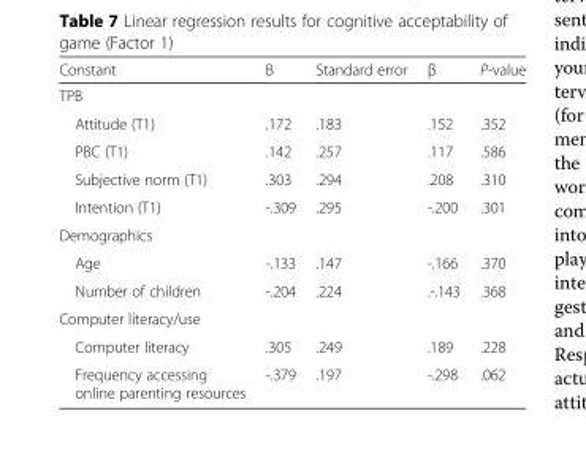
<table><thead><tr><td>Constant</td><td>B</td><td>Standard error</td><td>β</td><td>P-value</td></tr></thead><tbody><tr><td colspan="5">TPB</td></tr><tr><td>Attitude (T1)</td><td>.172</td><td>.183</td><td>.152</td><td>.352</td></tr><tr><td>PBC (T1)</td><td>.142</td><td>.257</td><td>.117</td><td>.586</td></tr><tr><td>Subjective norm (T1)</td><td>.303</td><td>.294</td><td>.208</td><td>.310</td></tr><tr><td>Intention (T1)</td><td>-.309</td><td>.295</td><td>-.200</td><td>.301</td></tr><tr><td colspan="5">Demographics</td></tr><tr><td>Age</td><td>-.133</td><td>.147</td><td>-.166</td><td>.370</td></tr><tr><td>Number of children</td><td>-.204</td><td>.224</td><td>.-.143</td><td>.368</td></tr><tr><td colspan="5">Computer literacy/use</td></tr><tr><td>Computer literacy</td><td>.305</td><td>.249</td><td>.189</td><td>.228</td></tr><tr><td>Frequency accessing online parenting resources</td><td>-.379</td><td>.197</td><td>-.298</td><td>.062</td></tr></tbody></table>